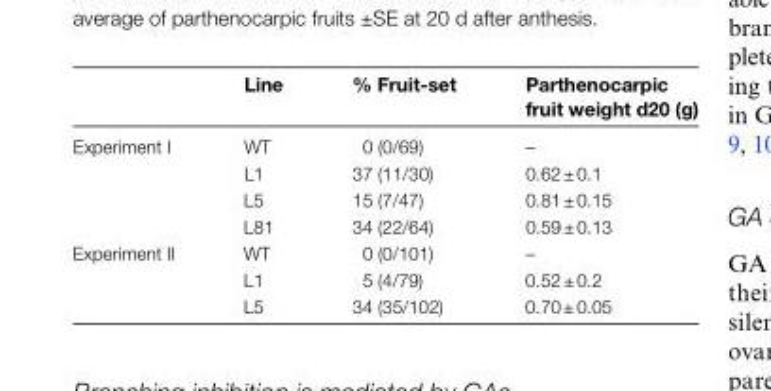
<table><thead><tr><td></td><td>Line</td><td>% Fruit-set</td><td>Parthenocarpic fruit weight d20 (g)</td></tr></thead><tbody><tr><td rowspan="4">Experiment I</td><td>WT</td><td>0 (0/69)</td><td>–</td></tr><tr><td>L1</td><td>37 (11/30)</td><td>0.62 ± 0.1</td></tr><tr><td>L5</td><td>15 (7/47)</td><td>0.81 ± 0.15</td></tr><tr><td>L81</td><td>34 (22/64)</td><td>0.59 ± 0.13</td></tr><tr><td rowspan="3">Experiment II</td><td>WT</td><td>0 (0/101)</td><td>–</td></tr><tr><td>L1</td><td>5 (4/79)</td><td>0.52 ± 0.2</td></tr><tr><td>L5</td><td>34 (35/102)</td><td>0.70 ± 0.05</td></tr></tbody></table>